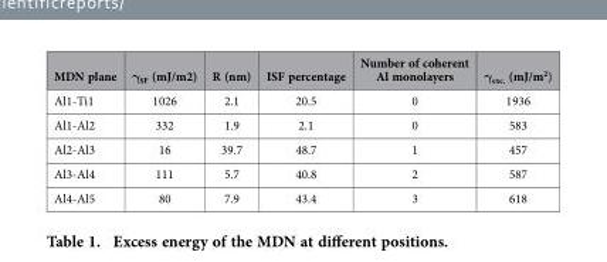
<table><thead><tr><td>MDN plane</td><td>γ<sub>SF</sub> (mJ/m2)</td><td>R (nm)</td><td>ISF percentage</td><td>Number of coherent Al monolayers</td><td>γ<sub>exc.</sub> (mJ/m<sup>2</sup>)</td></tr></thead><tbody><tr><td>Al1-Ti1</td><td>1026</td><td>2.1</td><td>20.5</td><td>0</td><td>1936</td></tr><tr><td>Al1-Al2</td><td>332</td><td>1.9</td><td>2.1</td><td>0</td><td>583</td></tr><tr><td>Al2-Al3</td><td>16</td><td>39.7</td><td>48.7</td><td>1</td><td>457</td></tr><tr><td>Al3-Al4</td><td>111</td><td>5.7</td><td>40.8</td><td>2</td><td>587</td></tr><tr><td>Al4-Al5</td><td>80</td><td>7.9</td><td>43.4</td><td>3</td><td>618</td></tr></tbody></table>